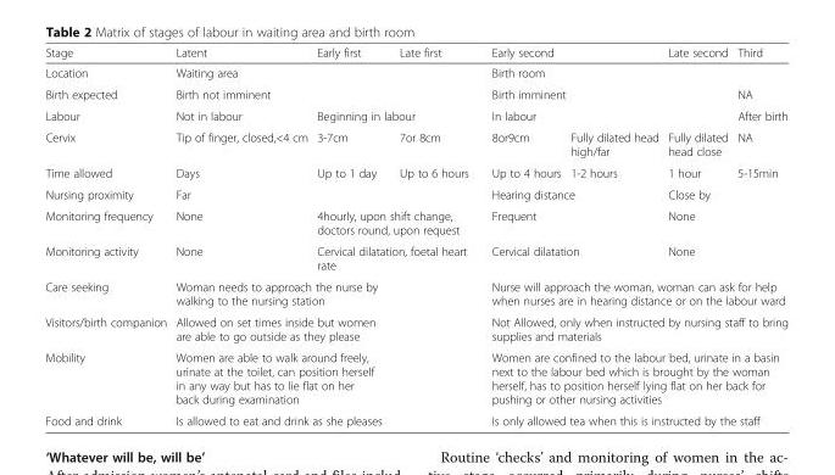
<table><thead><tr><td>Stage</td><td>Latent</td><td>Early first</td><td>Late first</td><td colspan="2">Early second</td><td>Late second</td><td>Third</td></tr></thead><tbody><tr><td>Location</td><td colspan="3">Waiting area</td><td colspan="3">Birth room</td><td></td></tr><tr><td>Birth expected</td><td colspan="3">Birth not imminent</td><td colspan="3">Birth imminent</td><td>NA</td></tr><tr><td>Labour</td><td>Not in labour</td><td colspan="2">Beginning in labour</td><td colspan="3">In labour</td><td>After birth</td></tr><tr><td>Cervix</td><td>Tip of finger, closed,&lt;4 cm</td><td>3-7cm</td><td>7or 8cm</td><td>8or9cm</td><td>Fully dilated head high/far</td><td>Fully dilated head close</td><td>NA</td></tr><tr><td>Time allowed</td><td>Days</td><td>Up to 1 day</td><td>Up to 6 hours</td><td>Up to 4 hours</td><td>1-2 hours</td><td>1 hour</td><td>5-15min</td></tr><tr><td>Nursing proximity</td><td colspan="3">Far</td><td colspan="2">Hearing distance</td><td colspan="2">Close by</td></tr><tr><td>Monitoring frequency</td><td>None</td><td colspan="2">4hourly, upon shift change, doctors round, upon request</td><td colspan="2">Frequent</td><td colspan="2">None</td></tr><tr><td>Monitoring activity</td><td>None</td><td colspan="2">Cervical dilatation, foetal heart rate</td><td colspan="2">Cervical dilatation</td><td colspan="2">None</td></tr><tr><td>Care seeking</td><td colspan="3">Woman needs to approach the nurse by walking to the nursing station</td><td colspan="4">Nurse will approach the woman, woman can ask for help when nurses are in hearing distance or on the labour ward</td></tr><tr><td>Visitors/birth companion</td><td colspan="3">Allowed on set times inside but women are able to go outside as they please</td><td colspan="4">Not Allowed, only when instructed by nursing staff to bring supplies and materials</td></tr><tr><td>Mobility</td><td colspan="3">Women are able to walk around freely, urinate at the toilet, can position herself in any way but has to lie flat on her back during examination</td><td colspan="4">Women are confined to the labour bed, urinate in a basin next to the labour bed which is brought by the woman herself, has to position herself lying flat on her back for pushing or other nursing activities</td></tr><tr><td>Food and drink</td><td colspan="3">Is allowed to eat and drink as she pleases</td><td colspan="4">Is only allowed tea when this is instructed by the staff</td></tr></tbody></table>